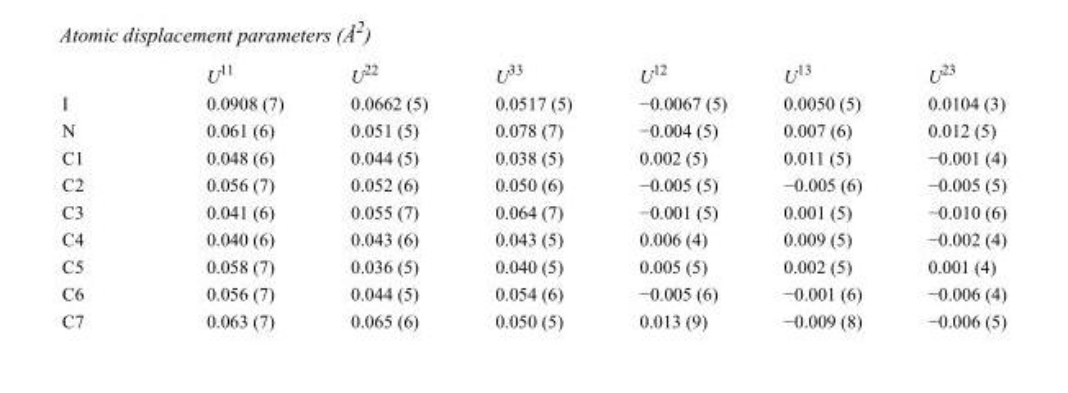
<table><thead><tr><td></td><td>U<sup>11</sup></td><td>U<sup>22</sup></td><td>U<sup>33</sup></td><td>U<sup>12</sup></td><td>U<sup>13</sup></td><td>U<sup>23</sup></td></tr></thead><tbody><tr><td>I</td><td>0.0908 (7)</td><td>0.0662 (5)</td><td>0.0517 (5)</td><td>−0.0067 (5)</td><td>0.0050 (5)</td><td>0.0104 (3)</td></tr><tr><td>N</td><td>0.061 (6)</td><td>0.051 (5)</td><td>0.078 (7)</td><td>−0.004 (5)</td><td>0.007 (6)</td><td>0.012 (5)</td></tr><tr><td>C1</td><td>0.048 (6)</td><td>0.044 (5)</td><td>0.038 (5)</td><td>0.002 (5)</td><td>0.011 (5)</td><td>−0.001 (4)</td></tr><tr><td>C2</td><td>0.056 (7)</td><td>0.052 (6)</td><td>0.050 (6)</td><td>−0.005 (5)</td><td>−0.005 (6)</td><td>−0.005 (5)</td></tr><tr><td>C3</td><td>0.041 (6)</td><td>0.055 (7)</td><td>0.064 (7)</td><td>−0.001 (5)</td><td>0.001 (5)</td><td>−0.010 (6)</td></tr><tr><td>C4</td><td>0.040 (6)</td><td>0.043 (6)</td><td>0.043 (5)</td><td>0.006 (4)</td><td>0.009 (5)</td><td>−0.002 (4)</td></tr><tr><td>C5</td><td>0.058 (7)</td><td>0.036 (5)</td><td>0.040 (5)</td><td>0.005 (5)</td><td>0.002 (5)</td><td>0.001 (4)</td></tr><tr><td>C6</td><td>0.056 (7)</td><td>0.044 (5)</td><td>0.054 (6)</td><td>−0.005 (6)</td><td>−0.001 (6)</td><td>−0.006 (4)</td></tr><tr><td>C7</td><td>0.063 (7)</td><td>0.065 (6)</td><td>0.050 (5)</td><td>0.013 (9)</td><td>−0.009 (8)</td><td>−0.006 (5)</td></tr></tbody></table>